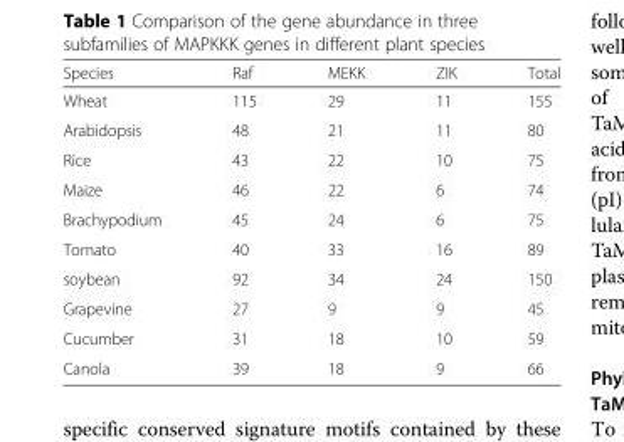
<table><thead><tr><td>Species</td><td>Raf</td><td>MEKK</td><td>ZIK</td><td>Total</td></tr></thead><tbody><tr><td>Wheat</td><td>115</td><td>29</td><td>11</td><td>155</td></tr><tr><td>Arabidopsis</td><td>48</td><td>21</td><td>11</td><td>80</td></tr><tr><td>Rice</td><td>43</td><td>22</td><td>10</td><td>75</td></tr><tr><td>Maize</td><td>46</td><td>22</td><td>6</td><td>74</td></tr><tr><td>Brachypodium</td><td>45</td><td>24</td><td>6</td><td>75</td></tr><tr><td>Tomato</td><td>40</td><td>33</td><td>16</td><td>89</td></tr><tr><td>soybean</td><td>92</td><td>34</td><td>24</td><td>150</td></tr><tr><td>Grapevine</td><td>27</td><td>9</td><td>9</td><td>45</td></tr><tr><td>Cucumber</td><td>31</td><td>18</td><td>10</td><td>59</td></tr><tr><td>Canola</td><td>39</td><td>18</td><td>9</td><td>66</td></tr></tbody></table>